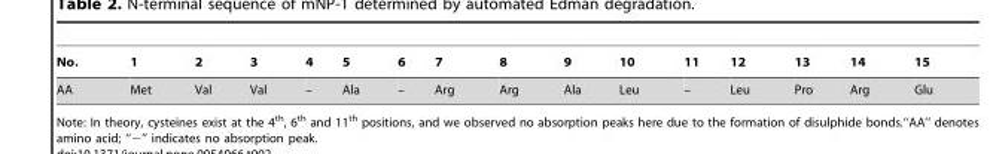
<table><thead><tr><td>No.</td><td>1</td><td>2</td><td>3</td><td>4</td><td>5</td><td>6</td><td>7</td><td>8</td><td>9</td><td>10</td><td>11</td><td>12</td><td>13</td><td>14</td><td>15</td></tr></thead><tbody><tr><td>AA</td><td>Met</td><td>Val</td><td>Val</td><td>–</td><td>Ala</td><td>–</td><td>Arg</td><td>Arg</td><td>Ala</td><td>Leu</td><td>–</td><td>Leu</td><td>Pro</td><td>Arg</td><td>Glu</td></tr></tbody></table>